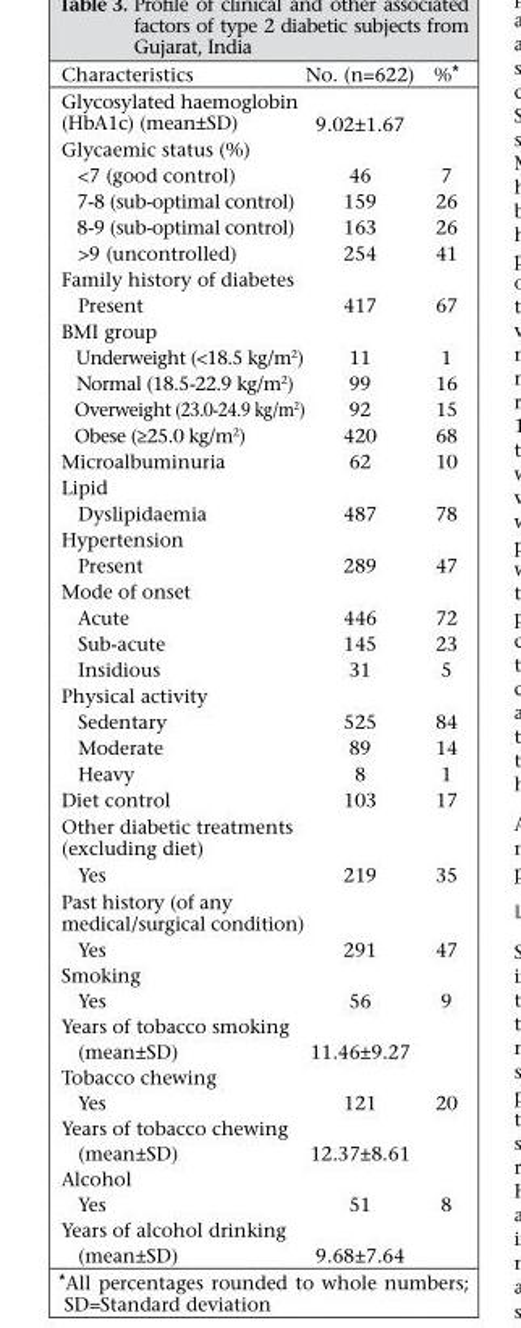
<table><thead><tr><td>Characteristics</td><td>No. (n=622)</td><td>%*</td></tr></thead><tbody><tr><td>Glycosylated haemoglobin (HbA1c) (mean±SD)</td><td>9.02±1.67</td><td></td></tr><tr><td colspan="3">Glycaemic status (%)</td></tr><tr><td>&lt;7 (good control)</td><td>46</td><td>7</td></tr><tr><td>7-8 (sub-optimal control)</td><td>159</td><td>26</td></tr><tr><td>8-9 (sub-optimal control)</td><td>163</td><td>26</td></tr><tr><td>&gt;9 (uncontrolled)</td><td>254</td><td>41</td></tr><tr><td colspan="3">Family history of diabetes</td></tr><tr><td>Present</td><td>417</td><td>67</td></tr><tr><td colspan="3">BMI group</td></tr><tr><td>Underweight (&lt;18.5 kg/m<sup>2</sup>)</td><td>11</td><td>1</td></tr><tr><td>Normal (18.5-22.9 kg/m<sup>2</sup>)</td><td>99</td><td>16</td></tr><tr><td>Overweight (23.0-24.9 kg/m<sup>2</sup>)</td><td>92</td><td>15</td></tr><tr><td>Obese (≥25.0 kg/m<sup>2</sup>)</td><td>420</td><td>68</td></tr><tr><td>Microalbuminuria</td><td>62</td><td>10</td></tr><tr><td colspan="3">Lipid</td></tr><tr><td>Dyslipidaemia</td><td>487</td><td>78</td></tr><tr><td colspan="3">Hypertension</td></tr><tr><td>Present</td><td>289</td><td>47</td></tr><tr><td colspan="3">Mode of onset</td></tr><tr><td>Acute</td><td>446</td><td>72</td></tr><tr><td>Sub-acute</td><td>145</td><td>23</td></tr><tr><td>Insidious</td><td>31</td><td>5</td></tr><tr><td colspan="3">Physical activity</td></tr><tr><td>Sedentary</td><td>525</td><td>84</td></tr><tr><td>Moderate</td><td>89</td><td>14</td></tr><tr><td>Heavy</td><td>8</td><td>1</td></tr><tr><td>Diet control</td><td>103</td><td>17</td></tr><tr><td colspan="3">Other diabetic treatments (excluding diet)</td></tr><tr><td>Yes</td><td>219</td><td>35</td></tr><tr><td colspan="3">Past history (of any medical/surgical condition)</td></tr><tr><td>Yes</td><td>291</td><td>47</td></tr><tr><td colspan="3">Smoking</td></tr><tr><td>Yes</td><td>56</td><td>9</td></tr><tr><td colspan="3">Years of tobacco smoking</td></tr><tr><td>(mean±SD)</td><td>11.46±9.27</td><td></td></tr><tr><td colspan="3">Tobacco chewing</td></tr><tr><td>Yes</td><td>121</td><td>20</td></tr><tr><td colspan="3">Years of tobacco chewing</td></tr><tr><td>(mean±SD)</td><td>12.37±8.61</td><td></td></tr><tr><td colspan="3">Alcohol</td></tr><tr><td>Yes</td><td>51</td><td>8</td></tr><tr><td colspan="3">Years of alcohol drinking</td></tr><tr><td>(mean±SD)</td><td>9.68±7.64</td><td></td></tr></tbody></table>